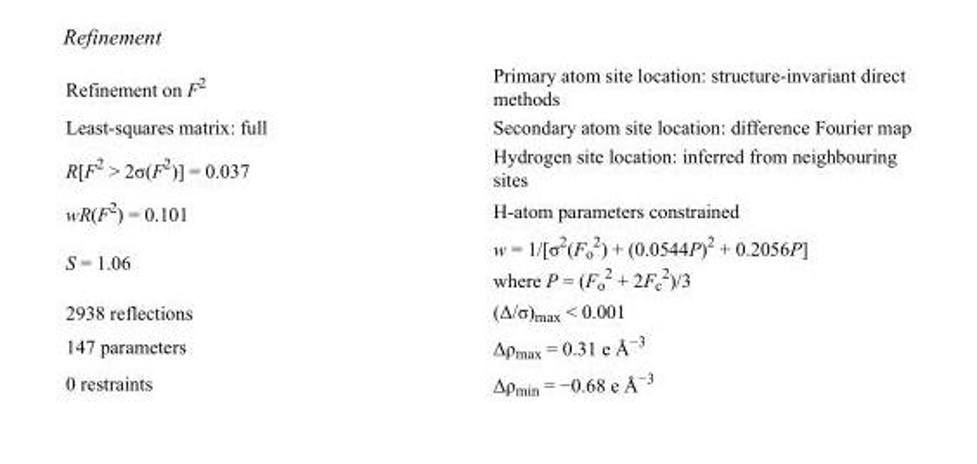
<table><tbody><tr><td>Refinement on F<sup>2</sup></td><td>Primary atom site location: structure-invariant direct methods</td></tr><tr><td>Least-squares matrix: full</td><td>Secondary atom site location: difference Fourier map</td></tr><tr><td>R[F<sup>2</sup> &gt; 2σ(F<sup>2</sup>)] = 0.037</td><td>Hydrogen site location: inferred from neighbouring sites</td></tr><tr><td>wR(F<sup>2</sup>) = 0.101</td><td>H-atom parameters constrained</td></tr><tr><td>S = 1.06</td><td>w = 1/[σ<sup>2</sup>(F<sub>o</sub> <sup>2</sup>) + (0.0544P)<sup>2</sup> + 0.2056P] where P = (F<sub>o</sub> <sup>2</sup> + 2F<sub>c</sub> <sup>2</sup>)/3</td></tr><tr><td>2938 reflections</td><td>(Δ/σ)<sub>max</sub> &lt; 0.001</td></tr><tr><td>147 parameters</td><td>Δρ<sub>max</sub> = 0.31 e Å<sup>−3</sup></td></tr><tr><td>0 restraints</td><td>Δρ<sub>min</sub> = −0.68 e Å<sup>−3</sup></td></tr></tbody></table>